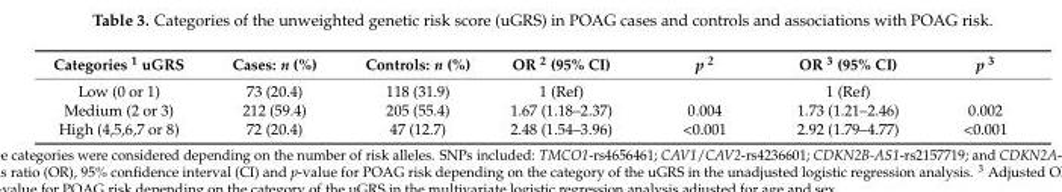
<table><thead><tr><td>Categories <sup>1</sup> uGRS</td><td>Cases: n (%)</td><td>Controls: n (%)</td><td>OR <sup>2</sup> (95% CI)</td><td>p <sup>2</sup></td><td>OR <sup>3</sup> (95% CI)</td><td>p <sup>3</sup></td></tr></thead><tbody><tr><td>Low (0 or 1)</td><td>73 (20.4)</td><td>118 (31.9)</td><td>1 (Ref)</td><td></td><td>1 (Ref)</td><td></td></tr><tr><td>Medium (2 or 3)</td><td>212 (59.4)</td><td>205 (55.4)</td><td>1.67 (1.18–2.37)</td><td>0.004</td><td>1.73 (1.21–2.46)</td><td>0.002</td></tr><tr><td>High (4,5,6,7 or 8)</td><td>72 (20.4)</td><td>47 (12.7)</td><td>2.48 (1.54–3.96)</td><td>&lt;0.001</td><td>2.92 (1.79–4.77)</td><td>&lt;0.001</td></tr></tbody></table>